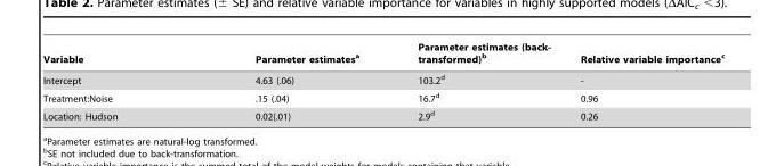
<table><thead><tr><td>Variable</td><td>Parameter estimates<sup>a</sup></td><td>Parameter estimates (back- transformed)<sup>b</sup></td><td>Relative variable importance<sup>c</sup></td></tr></thead><tbody><tr><td>Intercept</td><td>4.63 (.06)</td><td>103.2<sup>d</sup></td><td>-</td></tr><tr><td>Treatment:Noise</td><td>.15 (.04)</td><td>16.7<sup>d</sup></td><td>0.96</td></tr><tr><td>Location: Hudson</td><td>0.02(.01)</td><td>2.9<sup>d</sup></td><td>0.26</td></tr></tbody></table>